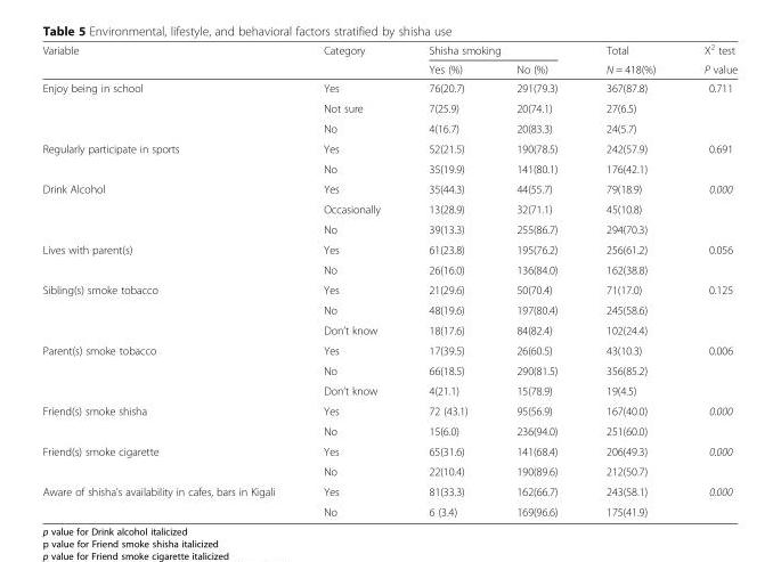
<table><thead><tr><td rowspan="2">Variable</td><td rowspan="2">Category</td><td colspan="2">Shisha smoking</td><td rowspan="2">Total N = 418(%)</td><td rowspan="2">X<sup>2</sup> test P value</td></tr><tr><td>Yes (%)</td><td>No (%)</td></tr></thead><tbody><tr><td rowspan="3">Enjoy being in school</td><td>Yes</td><td>76(20.7)</td><td>291(79.3)</td><td>367(87.8)</td><td rowspan="3">0.711</td></tr><tr><td>Not sure</td><td>7(25.9)</td><td>20(74.1)</td><td>27(6.5)</td></tr><tr><td>No</td><td>4(16.7)</td><td>20(83.3)</td><td>24(5.7)</td></tr><tr><td rowspan="2">Regularly participate in sports</td><td>Yes</td><td>52(21.5)</td><td>190(78.5)</td><td>242(57.9)</td><td rowspan="2">0.691</td></tr><tr><td>No</td><td>35(19.9)</td><td>141(80.1)</td><td>176(42.1)</td></tr><tr><td rowspan="3">Drink Alcohol</td><td>Yes</td><td>35(44.3)</td><td>44(55.7)</td><td>79(18.9)</td><td rowspan="3">0.000</td></tr><tr><td>Occasionally</td><td>13(28.9)</td><td>32(71.1)</td><td>45(10.8)</td></tr><tr><td>No</td><td>39(13.3)</td><td>255(86.7)</td><td>294(70.3)</td></tr><tr><td rowspan="2">Lives with parent(s)</td><td>Yes</td><td>61(23.8)</td><td>195(76.2)</td><td>256(61.2)</td><td rowspan="2">0.056</td></tr><tr><td>No</td><td>26(16.0)</td><td>136(84.0)</td><td>162(38.8)</td></tr><tr><td rowspan="3">Sibling(s) smoke tobacco</td><td>Yes</td><td>21(29.6)</td><td>50(70.4)</td><td>71(17.0)</td><td rowspan="3">0.125</td></tr><tr><td>No</td><td>48(19.6)</td><td>197(80.4)</td><td>245(58.6)</td></tr><tr><td>Don’t know</td><td>18(17.6)</td><td>84(82.4)</td><td>102(24.4)</td></tr><tr><td rowspan="3">Parent(s) smoke tobacco</td><td>Yes</td><td>17(39.5)</td><td>26(60.5)</td><td>43(10.3)</td><td rowspan="3">0.006</td></tr><tr><td>No</td><td>66(18.5)</td><td>290(81.5)</td><td>356(85.2)</td></tr><tr><td>Don’t know</td><td>4(21.1)</td><td>15(78.9)</td><td>19(4.5)</td></tr><tr><td rowspan="2">Friend(s) smoke shisha</td><td>Yes</td><td>72 (43.1)</td><td>95(56.9)</td><td>167(40.0)</td><td rowspan="2">0.000</td></tr><tr><td>No</td><td>15(6.0)</td><td>236(94.0)</td><td>251(60.0)</td></tr><tr><td rowspan="2">Friend(s) smoke cigarette</td><td>Yes</td><td>65(31.6)</td><td>141(68.4)</td><td>206(49.3)</td><td rowspan="2">0.000</td></tr><tr><td>No</td><td>22(10.4)</td><td>190(89.6)</td><td>212(50.7)</td></tr><tr><td rowspan="2">Aware of shisha’s availability in cafes, bars in Kigali</td><td>Yes</td><td>81(33.3)</td><td>162(66.7)</td><td>243(58.1)</td><td rowspan="2">0.000</td></tr><tr><td>No</td><td>6 (3.4)</td><td>169(96.6)</td><td>175(41.9)</td></tr></tbody></table>